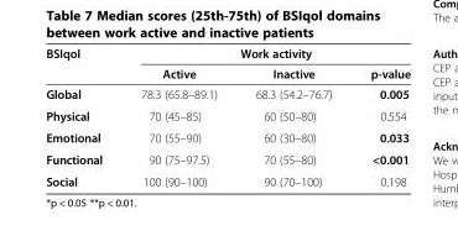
<table><thead><tr><td rowspan="2">BSIqol</td><td colspan="3">Work activity</td></tr><tr><td>Active</td><td>Inactive</td><td>p-value</td></tr></thead><tbody><tr><td>Global</td><td>78.3 (65.8–89.1)</td><td>68.3 (54.2–76.7)</td><td>0.005</td></tr><tr><td>Physical</td><td>70 (45–85)</td><td>60 (50–80)</td><td>0.554</td></tr><tr><td>Emotional</td><td>70 (55–90)</td><td>60 (30–80)</td><td>0.033</td></tr><tr><td>Functional</td><td>90 (75–97.5)</td><td>70 (55–80)</td><td>&lt;0.001</td></tr><tr><td>Social</td><td>100 (90–100)</td><td>90 (70–100)</td><td>0.198</td></tr></tbody></table>